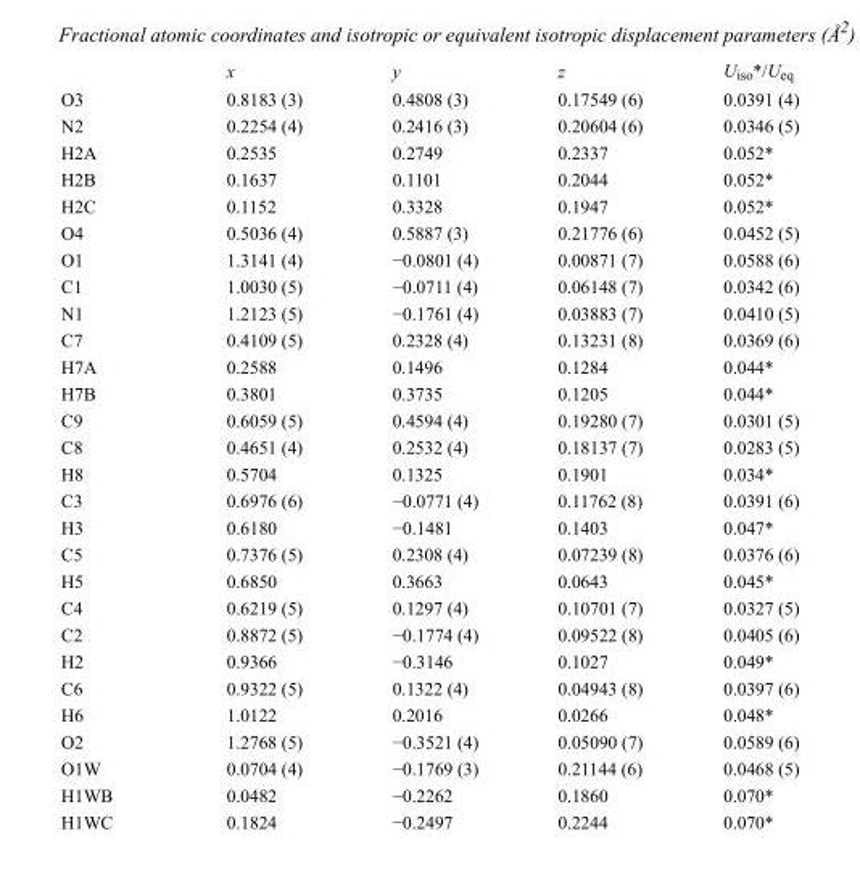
<table><thead><tr><td></td><td>x</td><td>y</td><td>z</td><td>U<sub>iso</sub>*/U<sub>eq</sub></td></tr></thead><tbody><tr><td>O3</td><td>0.8183 (3)</td><td>0.4808 (3)</td><td>0.17549 (6)</td><td>0.0391 (4)</td></tr><tr><td>N2</td><td>0.2254 (4)</td><td>0.2416 (3)</td><td>0.20604 (6)</td><td>0.0346 (5)</td></tr><tr><td>H2A</td><td>0.2535</td><td>0.2749</td><td>0.2337</td><td>0.052*</td></tr><tr><td>H2B</td><td>0.1637</td><td>0.1101</td><td>0.2044</td><td>0.052*</td></tr><tr><td>H2C</td><td>0.1152</td><td>0.3328</td><td>0.1947</td><td>0.052*</td></tr><tr><td>O4</td><td>0.5036 (4)</td><td>0.5887 (3)</td><td>0.21776 (6)</td><td>0.0452 (5)</td></tr><tr><td>O1</td><td>1.3141 (4)</td><td>−0.0801 (4)</td><td>0.00871 (7)</td><td>0.0588 (6)</td></tr><tr><td>C1</td><td>1.0030 (5)</td><td>−0.0711 (4)</td><td>0.06148 (7)</td><td>0.0342 (6)</td></tr><tr><td>N1</td><td>1.2123 (5)</td><td>−0.1761 (4)</td><td>0.03883 (7)</td><td>0.0410 (5)</td></tr><tr><td>C7</td><td>0.4109 (5)</td><td>0.2328 (4)</td><td>0.13231 (8)</td><td>0.0369 (6)</td></tr><tr><td>H7A</td><td>0.2588</td><td>0.1496</td><td>0.1284</td><td>0.044*</td></tr><tr><td>H7B</td><td>0.3801</td><td>0.3735</td><td>0.1205</td><td>0.044*</td></tr><tr><td>C9</td><td>0.6059 (5)</td><td>0.4594 (4)</td><td>0.19280 (7)</td><td>0.0301 (5)</td></tr><tr><td>C8</td><td>0.4651 (4)</td><td>0.2532 (4)</td><td>0.18137 (7)</td><td>0.0283 (5)</td></tr><tr><td>H8</td><td>0.5704</td><td>0.1325</td><td>0.1901</td><td>0.034*</td></tr><tr><td>C3</td><td>0.6976 (6)</td><td>−0.0771 (4)</td><td>0.11762 (8)</td><td>0.0391 (6)</td></tr><tr><td>H3</td><td>0.6180</td><td>−0.1481</td><td>0.1403</td><td>0.047*</td></tr><tr><td>C5</td><td>0.7376 (5)</td><td>0.2308 (4)</td><td>0.07239 (8)</td><td>0.0376 (6)</td></tr><tr><td>H5</td><td>0.6850</td><td>0.3663</td><td>0.0643</td><td>0.045*</td></tr><tr><td>C4</td><td>0.6219 (5)</td><td>0.1297 (4)</td><td>0.10701 (7)</td><td>0.0327 (5)</td></tr><tr><td>C2</td><td>0.8872 (5)</td><td>−0.1774 (4)</td><td>0.09522 (8)</td><td>0.0405 (6)</td></tr><tr><td>H2</td><td>0.9366</td><td>−0.3146</td><td>0.1027</td><td>0.049*</td></tr><tr><td>C6</td><td>0.9322 (5)</td><td>0.1322 (4)</td><td>0.04943 (8)</td><td>0.0397 (6)</td></tr><tr><td>H6</td><td>1.0122</td><td>0.2016</td><td>0.0266</td><td>0.048*</td></tr><tr><td>O2</td><td>1.2768 (5)</td><td>−0.3521 (4)</td><td>0.05090 (7)</td><td>0.0589 (6)</td></tr><tr><td>O1W</td><td>0.0704 (4)</td><td>−0.1769 (3)</td><td>0.21144 (6)</td><td>0.0468 (5)</td></tr><tr><td>H1WB</td><td>0.0482</td><td>−0.2262</td><td>0.1860</td><td>0.070*</td></tr><tr><td>H1WC</td><td>0.1824</td><td>−0.2497</td><td>0.2244</td><td>0.070*</td></tr></tbody></table>